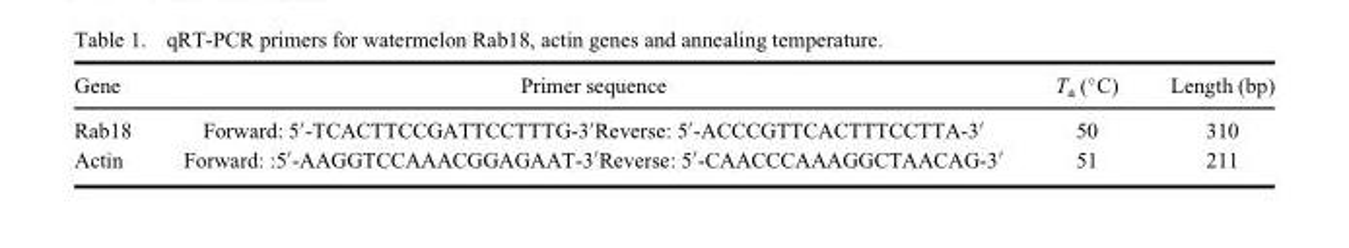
<table><thead><tr><td>Gene</td><td>Primer sequence</td><td>T<sub>a</sub> (°C)</td><td>Length (bp)</td></tr></thead><tbody><tr><td>Rab18</td><td>Forward: 5′-TCACTTCCGATTCCTTTG-3′Reverse: 5′-ACCCGTTCACTTTCCTTA-3′</td><td>50</td><td>310</td></tr><tr><td>Actin</td><td>Forward: :5′-AAGGTCCAAACGGAGAAT-3′Reverse: 5′-CAACCCAAAGGCTAACAG-3′</td><td>51</td><td>211</td></tr></tbody></table>